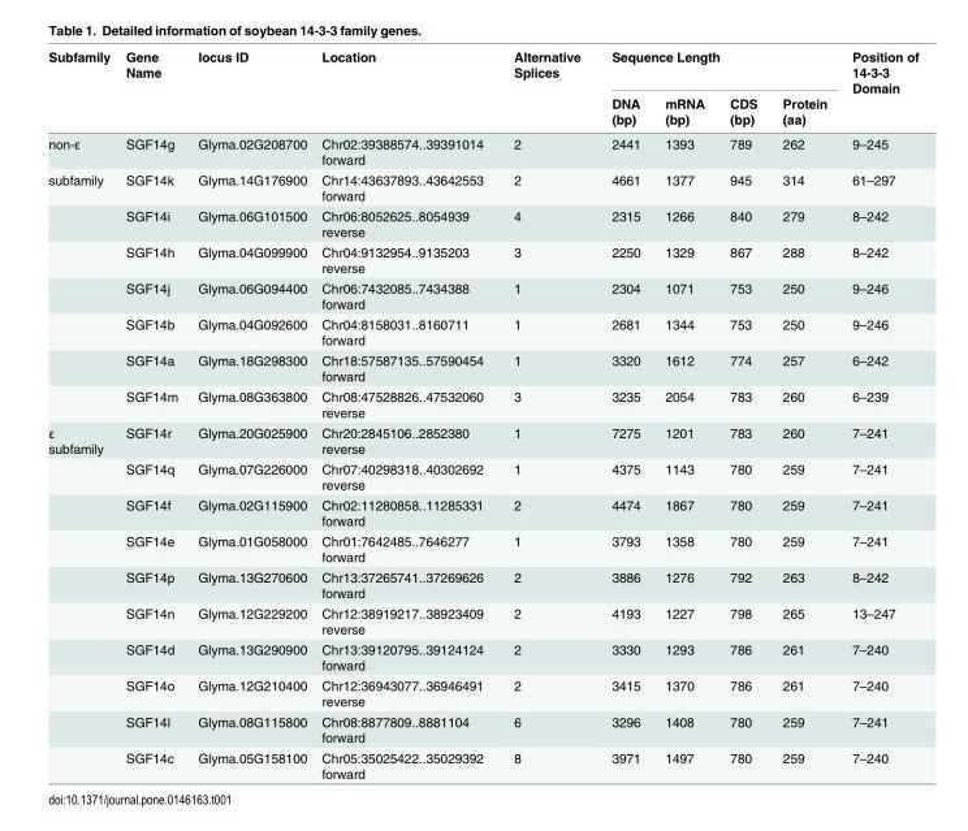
<table><thead><tr><td rowspan="2">Subfamily</td><td rowspan="2">Gene Name</td><td rowspan="2">locus ID</td><td rowspan="2">Location</td><td rowspan="2">Alternative Splices</td><td colspan="4">Sequence Length</td><td rowspan="2">Position of 14-3-3 Domain</td></tr><tr><td>DNA (bp)</td><td>mRNA (bp)</td><td>CDS (bp)</td><td>Protein (aa)</td></tr></thead><tbody><tr><td>non-ε</td><td>SGF14g</td><td>Glyma.02G208700</td><td>Chr02:39388574..39391014 forward</td><td>2</td><td>2441</td><td>1393</td><td>789</td><td>262</td><td>9–245</td></tr><tr><td rowspan="7">subfamily</td><td>SGF14k</td><td>Glyma.14G176900</td><td>Chr14:43637893..43642553 forward</td><td>2</td><td>4661</td><td>1377</td><td>945</td><td>314</td><td>61–297</td></tr><tr><td>SGF14i</td><td>Glyma.06G101500</td><td>Chr06:8052625..8054939 reverse</td><td>4</td><td>2315</td><td>1266</td><td>840</td><td>279</td><td>8–242</td></tr><tr><td>SGF14h</td><td>Glyma.04G099900</td><td>Chr04:9132954..9135203 reverse</td><td>3</td><td>2250</td><td>1329</td><td>867</td><td>288</td><td>8–242</td></tr><tr><td>SGF14j</td><td>Glyma.06G094400</td><td>Chr06:7432085..7434388 forward</td><td>1</td><td>2304</td><td>1071</td><td>753</td><td>250</td><td>9–246</td></tr><tr><td>SGF14b</td><td>Glyma.04G092600</td><td>Chr04:8158031..8160711 forward</td><td>1</td><td>2681</td><td>1344</td><td>753</td><td>250</td><td>9–246</td></tr><tr><td>SGF14a</td><td>Glyma.18G298300</td><td>Chr18:57587135..57590454 forward</td><td>1</td><td>3320</td><td>1612</td><td>774</td><td>257</td><td>6–242</td></tr><tr><td>SGF14m</td><td>Glyma.08G363800</td><td>Chr08:47528826..47532060 reverse</td><td>3</td><td>3235</td><td>2054</td><td>783</td><td>260</td><td>6–239</td></tr><tr><td rowspan="10">ε subfamily</td><td>SGF14r</td><td>Glyma.20G025900</td><td>Chr20:2845106..2852380 reverse</td><td>1</td><td>7275</td><td>1201</td><td>783</td><td>260</td><td>7–241</td></tr><tr><td>SGF14q</td><td>Glyma.07G226000</td><td>Chr07:40298318..40302692 reverse</td><td>1</td><td>4375</td><td>1143</td><td>780</td><td>259</td><td>7–241</td></tr><tr><td>SGF14f</td><td>Glyma.02G115900</td><td>Chr02:11280858..11285331 forward</td><td>2</td><td>4474</td><td>1867</td><td>780</td><td>259</td><td>7–241</td></tr><tr><td>SGF14e</td><td>Glyma.01G058000</td><td>Chr01:7642485..7646277 forward</td><td>1</td><td>3793</td><td>1358</td><td>780</td><td>259</td><td>7–241</td></tr><tr><td>SGF14p</td><td>Glyma.13G270600</td><td>Chr13:37265741..37269626 forward</td><td>2</td><td>3886</td><td>1276</td><td>792</td><td>263</td><td>8–242</td></tr><tr><td>SGF14n</td><td>Glyma.12G229200</td><td>Chr12:38919217..38923409 reverse</td><td>2</td><td>4193</td><td>1227</td><td>798</td><td>265</td><td>13–247</td></tr><tr><td>SGF14d</td><td>Glyma.13G290900</td><td>Chr13:39120795..39124124 forward</td><td>2</td><td>3330</td><td>1293</td><td>786</td><td>261</td><td>7–240</td></tr><tr><td>SGF14o</td><td>Glyma.12G210400</td><td>Chr12:36943077..36946491 reverse</td><td>2</td><td>3415</td><td>1370</td><td>786</td><td>261</td><td>7–240</td></tr><tr><td>SGF14l</td><td>Glyma.08G115800</td><td>Chr08:8877809..8881104 forward</td><td>6</td><td>3296</td><td>1408</td><td>780</td><td>259</td><td>7–241</td></tr><tr><td>SGF14c</td><td>Glyma.05G158100</td><td>Chr05:35025422..35029392 forward</td><td>8</td><td>3971</td><td>1497</td><td>780</td><td>259</td><td>7–240</td></tr></tbody></table>